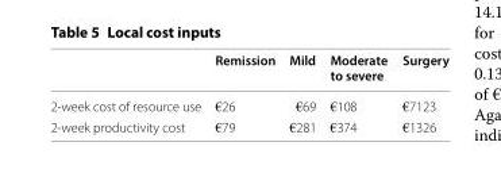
<table><thead><tr><td></td><td>Remission</td><td>Mild</td><td>Moderate to severe</td><td>Surgery</td></tr></thead><tbody><tr><td>2‑week cost of resource use</td><td>€26</td><td>€69</td><td>€108</td><td>€7123</td></tr><tr><td>2‑week productivity cost</td><td>€79</td><td>€281</td><td>€374</td><td>€1326</td></tr></tbody></table>